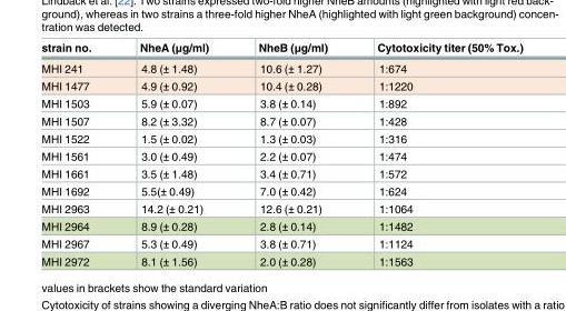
<table><thead><tr><td>strain no.</td><td>NheA (μg/ml)</td><td>NheB (μg/ml)</td><td>Cytotoxicity titer (50% Tox.)</td></tr></thead><tbody><tr><td>MHI 241</td><td>4.8 (± 1.48)</td><td>10.6 (± 1.27)</td><td>1:674</td></tr><tr><td>MHI 1477</td><td>4.9 (± 0.92)</td><td>10.4 (± 0.28)</td><td>1:1220</td></tr><tr><td>MHI 1503</td><td>5.9 (± 0.07)</td><td>3.8 (± 0.14)</td><td>1:892</td></tr><tr><td>MHI 1507</td><td>8.2 (± 3.32)</td><td>8.7 (± 0.07)</td><td>1:428</td></tr><tr><td>MHI 1522</td><td>1.5 (± 0.02)</td><td>1.3 (± 0.03)</td><td>1:316</td></tr><tr><td>MHI 1561</td><td>3.0 (± 0.49)</td><td>2.2 (± 0.07)</td><td>1:474</td></tr><tr><td>MHI 1661</td><td>3.5 (± 1.48)</td><td>3.4 (± 0.71)</td><td>1:572</td></tr><tr><td>MHI 1692</td><td>5.5(± 0.49)</td><td>7.0 (± 0.42)</td><td>1:624</td></tr><tr><td>MHI 2963</td><td>14.2 (± 0.21)</td><td>12.6 (± 0.21)</td><td>1:1064</td></tr><tr><td>MHI 2964</td><td>8.9 (± 0.28)</td><td>2.8 (± 0.14)</td><td>1:1482</td></tr><tr><td>MHI 2967</td><td>5.3 (± 0.49)</td><td>3.8 (± 0.71)</td><td>1:1124</td></tr><tr><td>MHI 2972</td><td>8.1 (± 1.56)</td><td>2.0 (± 0.28)</td><td>1:1563</td></tr></tbody></table>